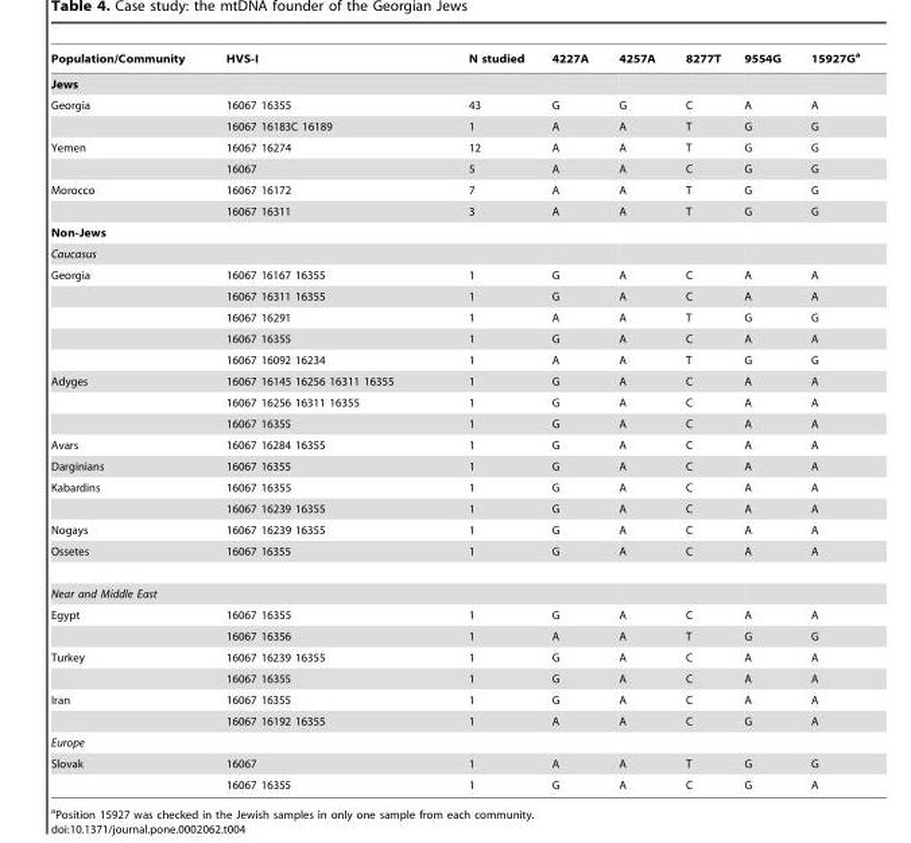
<table><thead><tr><td>Population/Community</td><td>HVS-I</td><td>N studied</td><td>4227A</td><td>4257A</td><td>8277T</td><td>9554G</td><td>15927G<sup>a</sup></td></tr></thead><tbody><tr><td colspan="8">Jews</td></tr><tr><td rowspan="2">Georgia</td><td>16067 16355</td><td>43</td><td>G</td><td>G</td><td>C</td><td>A</td><td>A</td></tr><tr><td>16067 16183C 16189</td><td>1</td><td>A</td><td>A</td><td>T</td><td>G</td><td>G</td></tr><tr><td rowspan="2">Yemen</td><td>16067 16274</td><td>12</td><td>A</td><td>A</td><td>T</td><td>G</td><td>G</td></tr><tr><td>16067</td><td>5</td><td>A</td><td>A</td><td>C</td><td>G</td><td>G</td></tr><tr><td rowspan="2">Morocco</td><td>16067 16172</td><td>7</td><td>A</td><td>A</td><td>T</td><td>G</td><td>G</td></tr><tr><td>16067 16311</td><td>3</td><td>A</td><td>A</td><td>T</td><td>G</td><td>G</td></tr><tr><td colspan="8">Non-Jews</td></tr><tr><td colspan="8">Caucasus</td></tr><tr><td rowspan="5">Georgia</td><td>16067 16167 16355</td><td>1</td><td>G</td><td>A</td><td>C</td><td>A</td><td>A</td></tr><tr><td>16067 16311 16355</td><td>1</td><td>G</td><td>A</td><td>C</td><td>A</td><td>A</td></tr><tr><td>16067 16291</td><td>1</td><td>A</td><td>A</td><td>T</td><td>G</td><td>G</td></tr><tr><td>16067 16355</td><td>1</td><td>G</td><td>A</td><td>C</td><td>A</td><td>A</td></tr><tr><td>16067 16092 16234</td><td>1</td><td>A</td><td>A</td><td>T</td><td>G</td><td>G</td></tr><tr><td rowspan="3">Adyges</td><td>16067 16145 16256 16311 16355</td><td>1</td><td>G</td><td>A</td><td>C</td><td>A</td><td>A</td></tr><tr><td>16067 16256 16311 16355</td><td>1</td><td>G</td><td>A</td><td>C</td><td>A</td><td>A</td></tr><tr><td>16067 16355</td><td>1</td><td>G</td><td>A</td><td>C</td><td>A</td><td>A</td></tr><tr><td>Avars</td><td>16067 16284 16355</td><td>1</td><td>G</td><td>A</td><td>C</td><td>A</td><td>A</td></tr><tr><td>Darginians</td><td>16067 16355</td><td>1</td><td>G</td><td>A</td><td>C</td><td>A</td><td>A</td></tr><tr><td rowspan="2">Kabardins</td><td>16067 16355</td><td>1</td><td>G</td><td>A</td><td>C</td><td>A</td><td>A</td></tr><tr><td>16067 16239 16355</td><td>1</td><td>G</td><td>A</td><td>C</td><td>A</td><td>A</td></tr><tr><td>Nogays</td><td>16067 16239 16355</td><td>1</td><td>G</td><td>A</td><td>C</td><td>A</td><td>A</td></tr><tr><td>Ossetes</td><td>16067 16355</td><td>1</td><td>G</td><td>A</td><td>C</td><td>A</td><td>A</td></tr><tr><td colspan="8">Near and Middle East</td></tr><tr><td rowspan="2">Egypt</td><td>16067 16355</td><td>1</td><td>G</td><td>A</td><td>C</td><td>A</td><td>A</td></tr><tr><td>16067 16356</td><td>1</td><td>A</td><td>A</td><td>T</td><td>G</td><td>G</td></tr><tr><td rowspan="2">Turkey</td><td>16067 16239 16355</td><td>1</td><td>G</td><td>A</td><td>C</td><td>A</td><td>A</td></tr><tr><td>16067 16355</td><td>1</td><td>G</td><td>A</td><td>C</td><td>A</td><td>A</td></tr><tr><td rowspan="2">Iran</td><td>16067 16355</td><td>1</td><td>G</td><td>A</td><td>C</td><td>A</td><td>A</td></tr><tr><td>16067 16192 16355</td><td>1</td><td>A</td><td>A</td><td>C</td><td>G</td><td>A</td></tr><tr><td colspan="8">Europe</td></tr><tr><td rowspan="2">Slovak</td><td>16067</td><td>1</td><td>A</td><td>A</td><td>T</td><td>G</td><td>G</td></tr><tr><td>16067 16355</td><td>1</td><td>G</td><td>A</td><td>C</td><td>G</td><td>A</td></tr></tbody></table>